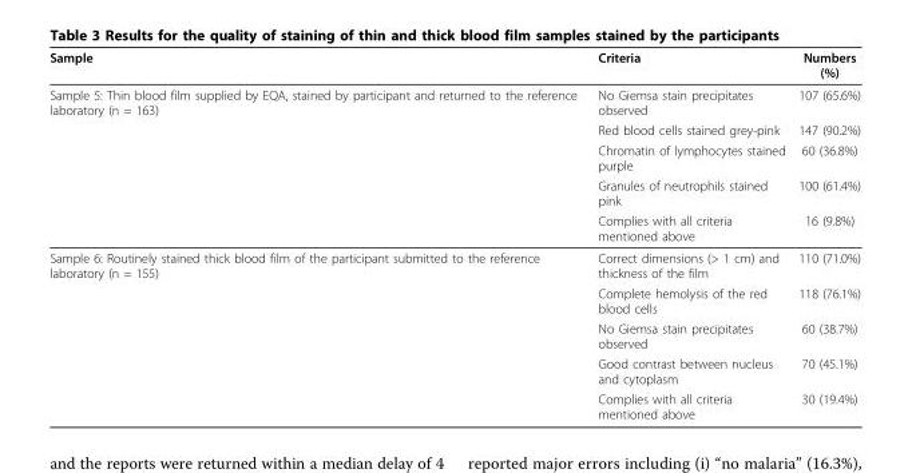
<table><thead><tr><td>Sample</td><td>Criteria</td><td>Numbers (%)</td></tr></thead><tbody><tr><td rowspan="5">Sample 5: Thin blood film supplied by EQA, stained by participant and returned to the reference laboratory (n = 163)</td><td>No Giemsa stain precipitates observed</td><td>107 (65.6%)</td></tr><tr><td>Red blood cells stained grey-pink</td><td>147 (90.2%)</td></tr><tr><td>Chromatin of lymphocytes stained purple</td><td>60 (36.8%)</td></tr><tr><td>Granules of neutrophils stained pink</td><td>100 (61.4%)</td></tr><tr><td>Complies with all criteria mentioned above</td><td>16 (9.8%)</td></tr><tr><td rowspan="5">Sample 6: Routinely stained thick blood film of the participant submitted to the reference laboratory (n = 155)</td><td>Correct dimensions (&gt; 1 cm) and thickness of the film</td><td>110 (71.0%)</td></tr><tr><td>Complete hemolysis of the red blood cells</td><td>118 (76.1%)</td></tr><tr><td>No Giemsa stain precipitates observed</td><td>60 (38.7%)</td></tr><tr><td>Good contrast between nucleus and cytoplasm</td><td>70 (45.1%)</td></tr><tr><td>Complies with all criteria mentioned above</td><td>30 (19.4%)</td></tr></tbody></table>